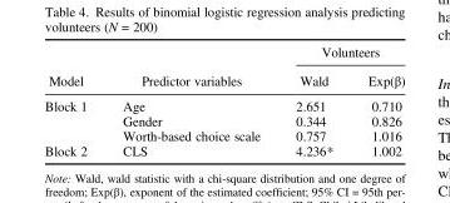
<table><thead><tr><td rowspan="2">Model</td><td rowspan="2">Predictor variables</td><td colspan="2">Volunteers</td></tr><tr><td>Wald</td><td>Exp(β)</td></tr></thead><tbody><tr><td rowspan="3">Block 1</td><td>Age</td><td>2.651</td><td>0.710</td></tr><tr><td>Gender</td><td>0.344</td><td>0.826</td></tr><tr><td>Worth-based choice scale</td><td>0.757</td><td>1.016</td></tr><tr><td>Block 2</td><td>CLS</td><td>4.236*</td><td>1.002</td></tr></tbody></table>